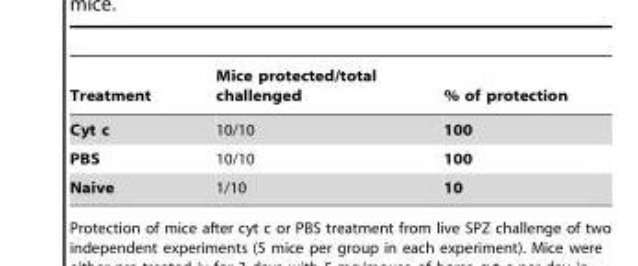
<table><thead><tr><td>Treatment</td><td>Mice protected/total challenged</td><td>% of protection</td></tr></thead><tbody><tr><td>Cyt c</td><td>10/10</td><td>100</td></tr><tr><td>PBS</td><td>10/10</td><td>100</td></tr><tr><td>Naive</td><td>1/10</td><td>10</td></tr></tbody></table>